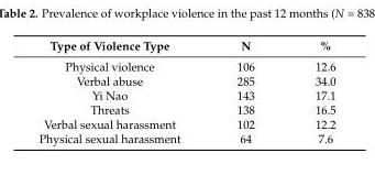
<table><thead><tr><td>Type of Violence Type</td><td>N</td><td>%</td></tr></thead><tbody><tr><td>Physical violence</td><td>106</td><td>12.6</td></tr><tr><td>Verbal abuse</td><td>285</td><td>34.0</td></tr><tr><td>Yi Nao</td><td>143</td><td>17.1</td></tr><tr><td>Threats</td><td>138</td><td>16.5</td></tr><tr><td>Verbal sexual harassment</td><td>102</td><td>12.2</td></tr><tr><td>Physical sexual harassment</td><td>64</td><td>7.6</td></tr></tbody></table>